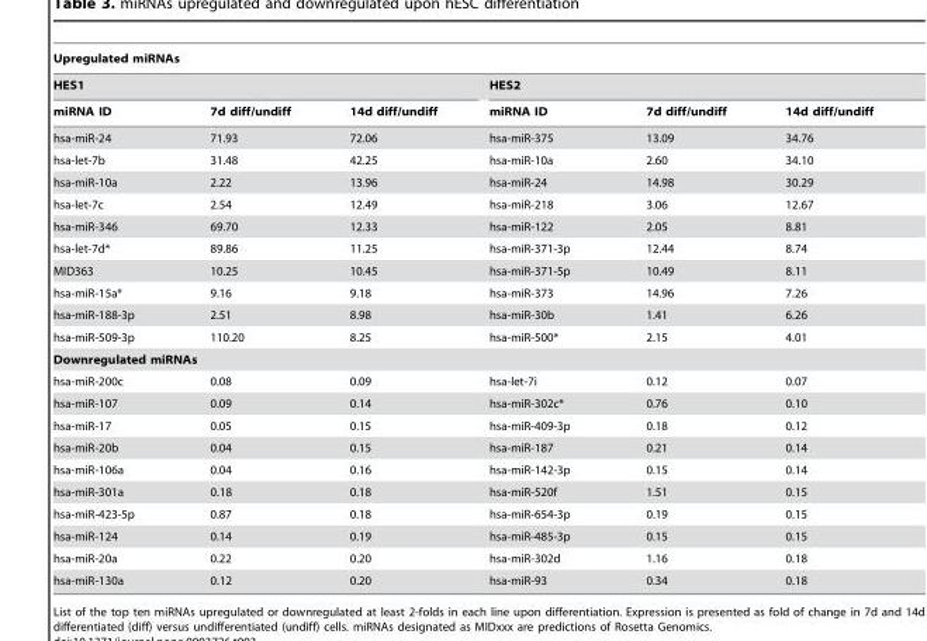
<table><thead><tr><td colspan="6">Upregulated miRNAs</td></tr><tr><td colspan="3">HES1</td><td colspan="3">HES2</td></tr><tr><td>miRNA ID</td><td>7d diff/undiff</td><td>14d diff/undiff</td><td>miRNA ID</td><td>7d diff/undiff</td><td>14d diff/undiff</td></tr></thead><tbody><tr><td>hsa-miR-24</td><td>71.93</td><td>72.06</td><td>hsa-miR-375</td><td>13.09</td><td>34.76</td></tr><tr><td>hsa-let-7b</td><td>31.48</td><td>42.25</td><td>hsa-miR-10a</td><td>2.60</td><td>34.10</td></tr><tr><td>hsa-miR-10a</td><td>2.22</td><td>13.96</td><td>hsa-miR-24</td><td>14.98</td><td>30.29</td></tr><tr><td>hsa-let-7c</td><td>2.54</td><td>12.49</td><td>hsa-miR-218</td><td>3.06</td><td>12.67</td></tr><tr><td>hsa-miR-346</td><td>69.70</td><td>12.33</td><td>hsa-miR-122</td><td>2.05</td><td>8.81</td></tr><tr><td>hsa-let-7d*</td><td>89.86</td><td>11.25</td><td>hsa-miR-371-3p</td><td>12.44</td><td>8.74</td></tr><tr><td>MID363</td><td>10.25</td><td>10.45</td><td>hsa-miR-371-5p</td><td>10.49</td><td>8.11</td></tr><tr><td>hsa-miR-15a*</td><td>9.16</td><td>9.18</td><td>hsa-miR-373</td><td>14.96</td><td>7.26</td></tr><tr><td>hsa-miR-188-3p</td><td>2.51</td><td>8.98</td><td>hsa-miR-30b</td><td>1.41</td><td>6.26</td></tr><tr><td>hsa-miR-509-3p</td><td>110.20</td><td>8.25</td><td>hsa-miR-500*</td><td>2.15</td><td>4.01</td></tr><tr><td colspan="6">Downregulated miRNAs</td></tr><tr><td>hsa-miR-200c</td><td>0.08</td><td>0.09</td><td>hsa-let-7i</td><td>0.12</td><td>0.07</td></tr><tr><td>hsa-miR-107</td><td>0.09</td><td>0.14</td><td>hsa-miR-302c*</td><td>0.76</td><td>0.10</td></tr><tr><td>hsa-miR-17</td><td>0.05</td><td>0.15</td><td>hsa-miR-409-3p</td><td>0.18</td><td>0.12</td></tr><tr><td>hsa-miR-20b</td><td>0.04</td><td>0.15</td><td>hsa-miR-187</td><td>0.21</td><td>0.14</td></tr><tr><td>hsa-miR-106a</td><td>0.04</td><td>0.16</td><td>hsa-miR-142-3p</td><td>0.15</td><td>0.14</td></tr><tr><td>hsa-miR-301a</td><td>0.18</td><td>0.18</td><td>hsa-miR-520f</td><td>1.51</td><td>0.15</td></tr><tr><td>hsa-miR-423-5p</td><td>0.87</td><td>0.18</td><td>hsa-miR-654-3p</td><td>0.19</td><td>0.15</td></tr><tr><td>hsa-miR-124</td><td>0.14</td><td>0.19</td><td>hsa-miR-485-3p</td><td>0.15</td><td>0.15</td></tr><tr><td>hsa-miR-20a</td><td>0.22</td><td>0.20</td><td>hsa-miR-302d</td><td>1.16</td><td>0.18</td></tr><tr><td>hsa-miR-130a</td><td>0.12</td><td>0.20</td><td>hsa-miR-93</td><td>0.34</td><td>0.18</td></tr></tbody></table>